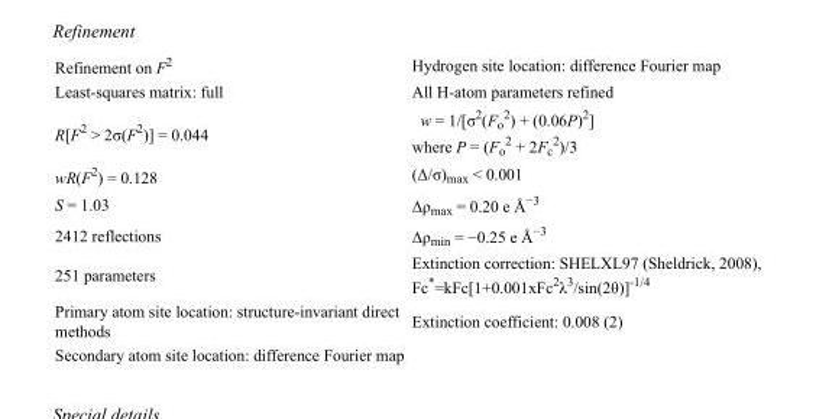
<table><tbody><tr><td>Refinement on F<sup>2</sup></td><td>Hydrogen site location: difference Fourier map</td></tr><tr><td>Least-squares matrix: full</td><td>All H-atom parameters refined</td></tr><tr><td>R[F<sup>2</sup> &gt; 2σ(F<sup>2</sup>)] = 0.044</td><td>w = 1/[σ<sup>2</sup>(F<sub>o</sub> <sup>2</sup>) + (0.06P)<sup>2</sup>] where P = (F<sub>o</sub> <sup>2</sup> + 2F<sub>c</sub> <sup>2</sup>)/3</td></tr><tr><td>wR(F<sup>2</sup>) = 0.128</td><td>(Δ/σ)<sub>max</sub> &lt; 0.001</td></tr><tr><td>S = 1.03</td><td>Δρ<sub>max</sub> = 0.20 e Å<sup>−3</sup></td></tr><tr><td>2412 reflections</td><td>Δρ<sub>min</sub> = −0.25 e Å<sup>−3</sup></td></tr><tr><td>251 parameters</td><td>Extinction correction: SHELXL97 (Sheldrick, 2008), Fc*=kFc[1+0.001xFc<sup>2</sup>λ<sup>3</sup>/sin(2θ)]<sup>-1/4</sup></td></tr><tr><td>Primary atom site location: structure-invariant direct methods</td><td>Extinction coefficient: 0.008 (2)</td></tr><tr><td>Secondary atom site location: difference Fourier map</td><td></td></tr></tbody></table>